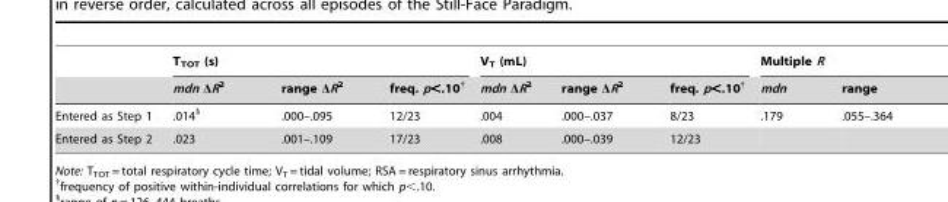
<table><thead><tr><td rowspan="2"></td><td colspan="3">T<sub>TOT</sub> (s)</td><td colspan="3">V<sub>T</sub> (mL)</td><td colspan="2">Multiple R</td></tr><tr><td>mdn ΔR<sup>2</sup></td><td>range ΔR<sup>2</sup></td><td>freq. p&lt;.10†</td><td>mdn ΔR<sup>2</sup></td><td>range ΔR<sup>2</sup></td><td>freq. p&lt;.10†</td><td>mdn</td><td>range</td></tr></thead><tbody><tr><td>Entered as Step 1</td><td>.014§</td><td>.000–.095</td><td>12/23</td><td>.004</td><td>.000–.037</td><td>8/23</td><td>.179</td><td>.055–.364</td></tr><tr><td>Entered as Step 2</td><td>.023</td><td>.001–.109</td><td>17/23</td><td>.008</td><td>.000–.039</td><td>12/23</td><td></td><td></td></tr></tbody></table>